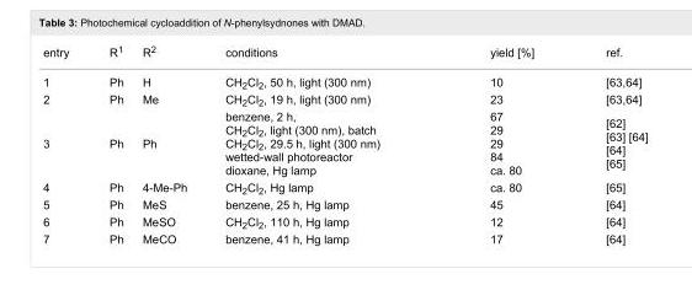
<table><tbody><tr><td>entry</td><td>R<sup>1</sup></td><td>R<sup>2</sup></td><td>conditions</td><td>yield [%]</td><td>ref.</td></tr><tr><td>1</td><td>Ph</td><td>H</td><td>CH<sub>2</sub>Cl<sub>2</sub>, 50 h, light (300 nm)</td><td>10</td><td>[63–64]</td></tr><tr><td>2</td><td>Ph</td><td>Me</td><td>CH<sub>2</sub>Cl<sub>2</sub>, 19 h, light (300 nm)</td><td>23</td><td>[63–64]</td></tr><tr><td>3</td><td>Ph</td><td>Ph</td><td>benzene, 2 h, CH<sub>2</sub>Cl<sub>2</sub>, light (300 nm), batch CH<sub>2</sub>Cl<sub>2</sub>, 29.5 h, light (300 nm) wetted-wall photoreactor dioxane, Hg lamp</td><td>67 29 29 84 ca. 80</td><td>[62] [63] [64] [64] [65]</td></tr><tr><td>4</td><td>Ph</td><td>4-Me-Ph</td><td>CH<sub>2</sub>Cl<sub>2</sub>, Hg lamp</td><td>ca. 80</td><td>[65]</td></tr><tr><td>5</td><td>Ph</td><td>MeS</td><td>benzene, 25 h, Hg lamp</td><td>45</td><td>[64]</td></tr><tr><td>6</td><td>Ph</td><td>MeSO</td><td>CH<sub>2</sub>Cl<sub>2</sub>, 110 h, Hg lamp</td><td>12</td><td>[64]</td></tr><tr><td>7</td><td>Ph</td><td>MeCO</td><td>benzene, 41 h, Hg lamp</td><td>17</td><td>[64]</td></tr></tbody></table>